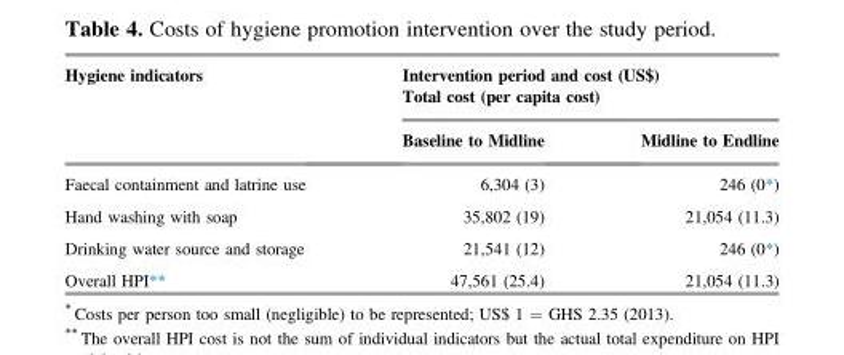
<table><thead><tr><td rowspan="2">Hygiene indicators</td><td colspan="2">Intervention period and cost (US$) Total cost (per capita cost)</td></tr><tr><td>Baseline to Midline</td><td>Midline to Endline</td></tr></thead><tbody><tr><td>Faecal containment and latrine use</td><td>6,304 (3)</td><td>246 (0*)</td></tr><tr><td>Hand washing with soap</td><td>35,802 (19)</td><td>21,054 (11.3)</td></tr><tr><td>Drinking water source and storage</td><td>21,541 (12)</td><td>246 (0*)</td></tr><tr><td>Overall HPI**</td><td>47,561 (25.4)</td><td>21,054 (11.3)</td></tr></tbody></table>